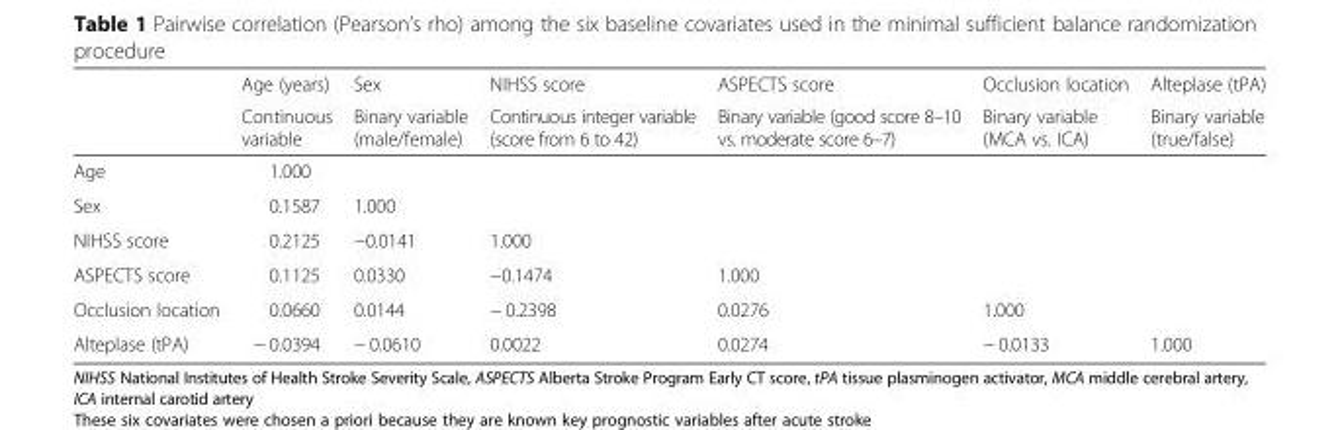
<table><thead><tr><td rowspan="2"></td><td rowspan="2">Age (years) Continuous variable</td><td rowspan="2">Sex Binary variable (male/female)</td><td rowspan="2">NIHSS score Continuous integer variable (score from 6 to 42)</td><td rowspan="2">ASPECTS score Binary variable (good score 8–10 vs. moderate score 6–7)</td><td rowspan="2">Occlusion location Binary variable (MCA vs. ICA)</td><td rowspan="2">Alteplase (tPA) Binary variable (true/false)</td></tr><tr></tr></thead><tbody><tr><td>Age</td><td>1.000</td><td></td><td></td><td></td><td></td><td></td></tr><tr><td>Sex</td><td>0.1587</td><td>1.000</td><td></td><td></td><td></td><td></td></tr><tr><td>NIHSS score</td><td>0.2125</td><td>−0.0141</td><td>1.000</td><td></td><td></td><td></td></tr><tr><td>ASPECTS score</td><td>0.1125</td><td>0.0330</td><td>−0.1474</td><td>1.000</td><td></td><td></td></tr><tr><td>Occlusion location</td><td>0.0660</td><td>0.0144</td><td>− 0.2398</td><td>0.0276</td><td>1.000</td><td></td></tr><tr><td>Alteplase (tPA)</td><td>− 0.0394</td><td>− 0.0610</td><td>0.0022</td><td>0.0274</td><td>− 0.0133</td><td>1.000</td></tr></tbody></table>